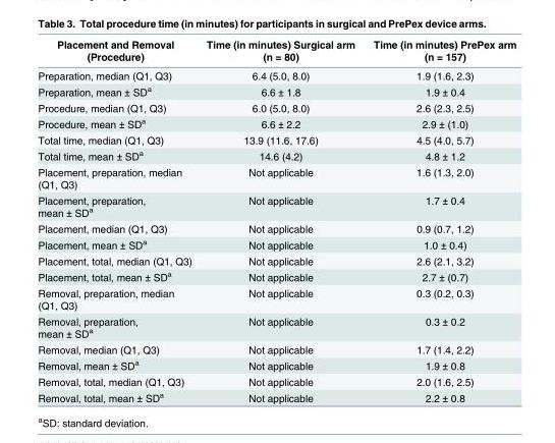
<table><thead><tr><td>Placement and Removal (Procedure)</td><td>Time (in minutes) Surgical arm (n = 80)</td><td>Time (in minutes) PrePex arm (n = 157)</td></tr></thead><tbody><tr><td>Preparation, median (Q1, Q3)</td><td>6.4 (5.0, 8.0)</td><td>1.9 (1.6, 2.3)</td></tr><tr><td>Preparation, mean ± SD<sup>a</sup></td><td>6.6 ± 1.8</td><td>1.9 ± 0.4</td></tr><tr><td>Procedure, median (Q1, Q3)</td><td>6.0 (5.0, 8.0)</td><td>2.6 (2.3, 2.5)</td></tr><tr><td>Procedure, mean ± SD<sup>a</sup></td><td>6.6 ± 2.2</td><td>2.9 ± (1.0)</td></tr><tr><td>Total time, median (Q1, Q3)</td><td>13.9 (11.6, 17.6)</td><td>4.5 (4.0, 5.7)</td></tr><tr><td>Total time, mean ± SD<sup>a</sup></td><td>14.6 (4.2)</td><td>4.8 ± 1.2</td></tr><tr><td>Placement, preparation, median (Q1, Q3)</td><td>Not applicable</td><td>1.6 (1.3, 2.0)</td></tr><tr><td>Placement, preparation, mean ± SD<sup>a</sup></td><td>Not applicable</td><td>1.7 ± 0.4</td></tr><tr><td>Placement, median (Q1, Q3)</td><td>Not applicable</td><td>0.9 (0.7, 1.2)</td></tr><tr><td>Placement, mean ± SD<sup>a</sup></td><td>Not applicable</td><td>1.0 ± 0.4)</td></tr><tr><td>Placement, total, median (Q1, Q3)</td><td>Not applicable</td><td>2.6 (2.1, 3.2)</td></tr><tr><td>Placement, total, mean ± SD<sup>a</sup></td><td>Not applicable</td><td>2.7 ± (0.7)</td></tr><tr><td>Removal, preparation, median (Q1, Q3)</td><td>Not applicable</td><td>0.3 (0.2, 0.3)</td></tr><tr><td>Removal, preparation, mean ± SD<sup>a</sup></td><td>Not applicable</td><td>0.3 ± 0.2</td></tr><tr><td>Removal, median (Q1, Q3)</td><td>Not applicable</td><td>1.7 (1.4, 2.2)</td></tr><tr><td>Removal, mean ± SD<sup>a</sup></td><td>Not applicable</td><td>1.9 ± 0.8</td></tr><tr><td>Removal, total, median (Q1, Q3)</td><td>Not applicable</td><td>2.0 (1.6, 2.5)</td></tr><tr><td>Removal, total, mean ± SD<sup>a</sup></td><td>Not applicable</td><td>2.2 ± 0.8</td></tr></tbody></table>